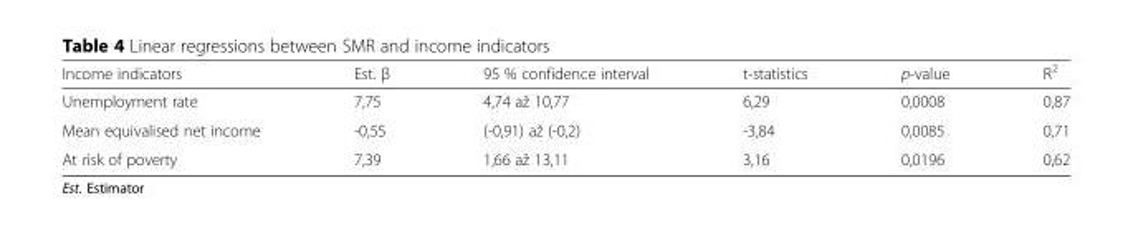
<table><thead><tr><td>Income indicators</td><td>Est. β</td><td>95 % confidence interval</td><td>t-statistics</td><td>p-value</td><td>R<sup>2</sup></td></tr></thead><tbody><tr><td>Unemployment rate</td><td>7,75</td><td>4,74 až 10,77</td><td>6,29</td><td>0,0008</td><td>0,87</td></tr><tr><td>Mean equivalised net income</td><td>-0,55</td><td>(-0,91) až (-0,2)</td><td>-3,84</td><td>0,0085</td><td>0,71</td></tr><tr><td>At risk of poverty</td><td>7,39</td><td>1,66 až 13,11</td><td>3,16</td><td>0,0196</td><td>0,62</td></tr></tbody></table>